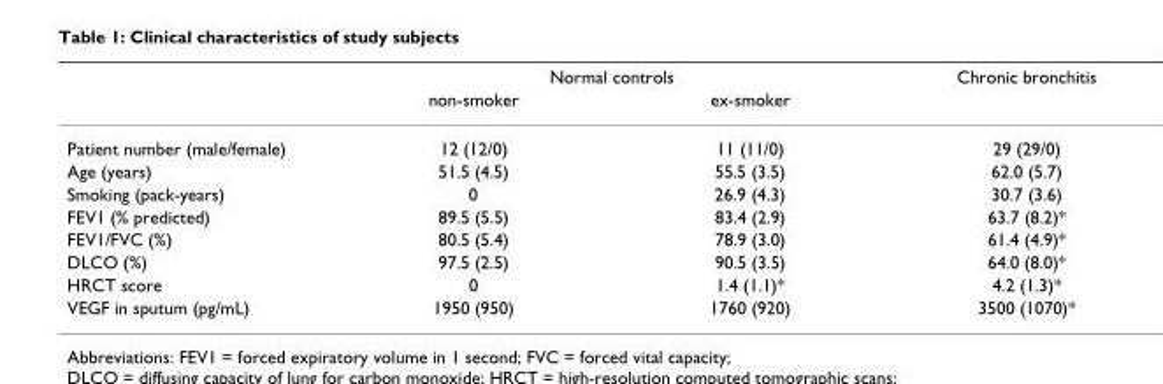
<table><thead><tr><td rowspan="2"></td><td colspan="2">Normal controls</td><td rowspan="2">Chronic bronchitis</td></tr><tr><td>non-smoker</td><td>ex-smoker</td></tr></thead><tbody><tr><td>Patient number (male/female)</td><td>12 (12/0)</td><td>11 (11/0)</td><td>29 (29/0)</td></tr><tr><td>Age (years)</td><td>51.5 (4.5)</td><td>55.5 (3.5)</td><td>62.0 (5.7)</td></tr><tr><td>Smoking (pack-years)</td><td>0</td><td>26.9 (4.3)</td><td>30.7 (3.6)</td></tr><tr><td>FEV1 (% predicted)</td><td>89.5 (5.5)</td><td>83.4 (2.9)</td><td>63.7 (8.2)*</td></tr><tr><td>FEV1/FVC (%)</td><td>80.5 (5.4)</td><td>78.9 (3.0)</td><td>61.4 (4.9)*</td></tr><tr><td>DLCO (%)</td><td>97.5 (2.5)</td><td>90.5 (3.5)</td><td>64.0 (8.0)*</td></tr><tr><td>HRCT score</td><td>0</td><td>1.4 (1.1)*</td><td>4.2 (1.3)*</td></tr><tr><td>VEGF in sputum (pg/mL)</td><td>1950 (950)</td><td>1760 (920)</td><td>3500 (1070)*</td></tr></tbody></table>